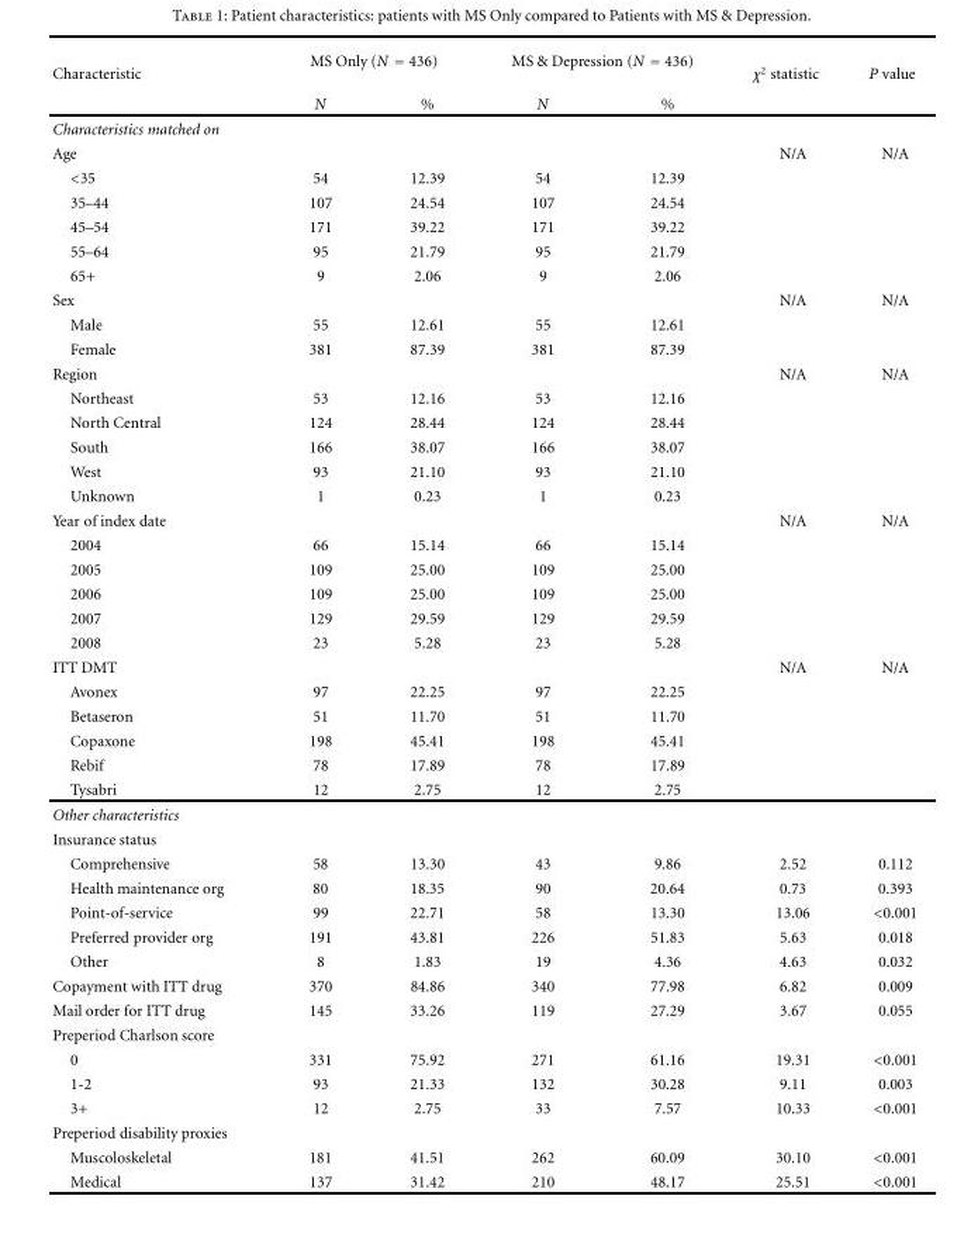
<table><thead><tr><td rowspan="2">Characteristic</td><td colspan="2">MS Only (N = 436)</td><td colspan="2">MS &amp; Depression (N = 436)</td><td rowspan="2">χ<sup>2</sup> statistic</td><td rowspan="2">P value</td></tr><tr><td>N</td><td>%</td><td>N</td><td>%</td></tr></thead><tbody><tr><td colspan="7">Characteristics matched on</td></tr><tr><td>Age</td><td></td><td></td><td></td><td></td><td>N/A</td><td>N/A</td></tr><tr><td>&lt;35</td><td>54</td><td>12.39</td><td>54</td><td>12.39</td><td></td><td></td></tr><tr><td>35–44</td><td>107</td><td>24.54</td><td>107</td><td>24.54</td><td></td><td></td></tr><tr><td>45–54</td><td>171</td><td>39.22</td><td>171</td><td>39.22</td><td></td><td></td></tr><tr><td>55–64</td><td>95</td><td>21.79</td><td>95</td><td>21.79</td><td></td><td></td></tr><tr><td>65+</td><td>9</td><td>2.06</td><td>9</td><td>2.06</td><td></td><td></td></tr><tr><td>Sex</td><td></td><td></td><td></td><td></td><td>N/A</td><td>N/A</td></tr><tr><td>Male</td><td>55</td><td>12.61</td><td>55</td><td>12.61</td><td></td><td></td></tr><tr><td>Female</td><td>381</td><td>87.39</td><td>381</td><td>87.39</td><td></td><td></td></tr><tr><td>Region</td><td></td><td></td><td></td><td></td><td>N/A</td><td>N/A</td></tr><tr><td>Northeast</td><td>53</td><td>12.16</td><td>53</td><td>12.16</td><td></td><td></td></tr><tr><td>North Central</td><td>124</td><td>28.44</td><td>124</td><td>28.44</td><td></td><td></td></tr><tr><td>South</td><td>166</td><td>38.07</td><td>166</td><td>38.07</td><td></td><td></td></tr><tr><td>West</td><td>93</td><td>21.10</td><td>93</td><td>21.10</td><td></td><td></td></tr><tr><td>Unknown</td><td>1</td><td>0.23</td><td>1</td><td>0.23</td><td></td><td></td></tr><tr><td>Year of index date</td><td></td><td></td><td></td><td></td><td>N/A</td><td>N/A</td></tr><tr><td>2004</td><td>66</td><td>15.14</td><td>66</td><td>15.14</td><td></td><td></td></tr><tr><td>2005</td><td>109</td><td>25.00</td><td>109</td><td>25.00</td><td></td><td></td></tr><tr><td>2006</td><td>109</td><td>25.00</td><td>109</td><td>25.00</td><td></td><td></td></tr><tr><td>2007</td><td>129</td><td>29.59</td><td>129</td><td>29.59</td><td></td><td></td></tr><tr><td>2008</td><td>23</td><td>5.28</td><td>23</td><td>5.28</td><td></td><td></td></tr><tr><td>ITT DMT</td><td></td><td></td><td></td><td></td><td>N/A</td><td>N/A</td></tr><tr><td>Avonex</td><td>97</td><td>22.25</td><td>97</td><td>22.25</td><td></td><td></td></tr><tr><td>Betaseron</td><td>51</td><td>11.70</td><td>51</td><td>11.70</td><td></td><td></td></tr><tr><td>Copaxone</td><td>198</td><td>45.41</td><td>198</td><td>45.41</td><td></td><td></td></tr><tr><td>Rebif</td><td>78</td><td>17.89</td><td>78</td><td>17.89</td><td></td><td></td></tr><tr><td>Tysabri</td><td>12</td><td>2.75</td><td>12</td><td>2.75</td><td></td><td></td></tr><tr><td colspan="7">Other characteristics</td></tr><tr><td colspan="7">Insurance status</td></tr><tr><td>Comprehensive</td><td>58</td><td>13.30</td><td>43</td><td>9.86</td><td>2.52</td><td>0.112</td></tr><tr><td>Health maintenance org</td><td>80</td><td>18.35</td><td>90</td><td>20.64</td><td>0.73</td><td>0.393</td></tr><tr><td>Point-of-service</td><td>99</td><td>22.71</td><td>58</td><td>13.30</td><td>13.06</td><td>&lt;0.001</td></tr><tr><td>Preferred provider org</td><td>191</td><td>43.81</td><td>226</td><td>51.83</td><td>5.63</td><td>0.018</td></tr><tr><td>Other</td><td>8</td><td>1.83</td><td>19</td><td>4.36</td><td>4.63</td><td>0.032</td></tr><tr><td>Copayment with ITT drug</td><td>370</td><td>84.86</td><td>340</td><td>77.98</td><td>6.82</td><td>0.009</td></tr><tr><td>Mail order for ITT drug</td><td>145</td><td>33.26</td><td>119</td><td>27.29</td><td>3.67</td><td>0.055</td></tr><tr><td colspan="7">Preperiod Charlson score</td></tr><tr><td>0</td><td>331</td><td>75.92</td><td>271</td><td>61.16</td><td>19.31</td><td>&lt;0.001</td></tr><tr><td>1-2</td><td>93</td><td>21.33</td><td>132</td><td>30.28</td><td>9.11</td><td>0.003</td></tr><tr><td>3+</td><td>12</td><td>2.75</td><td>33</td><td>7.57</td><td>10.33</td><td>&lt;0.001</td></tr><tr><td colspan="7">Preperiod disability proxies</td></tr><tr><td>Muscoloskeletal</td><td>181</td><td>41.51</td><td>262</td><td>60.09</td><td>30.10</td><td>&lt;0.001</td></tr><tr><td>Medical</td><td>137</td><td>31.42</td><td>210</td><td>48.17</td><td>25.51</td><td>&lt;0.001</td></tr></tbody></table>